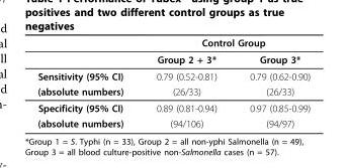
<table><thead><tr><td rowspan="2"></td><td colspan="2">Control Group</td></tr><tr><td>Group 2 + 3*</td><td>Group 3*</td></tr></thead><tbody><tr><td>Sensitivity (95% CI)</td><td>0.79 (0.52-0.81)</td><td>0.79 (0.62-0.90)</td></tr><tr><td>(absolute numbers)</td><td>(26/33)</td><td>(26/33)</td></tr><tr><td>Specificity (95% CI)</td><td>0.89 (0.81-0.94)</td><td>0.97 (0.85-0.99)</td></tr><tr><td>(absolute numbers)</td><td>(94/106)</td><td>(94/97)</td></tr></tbody></table>